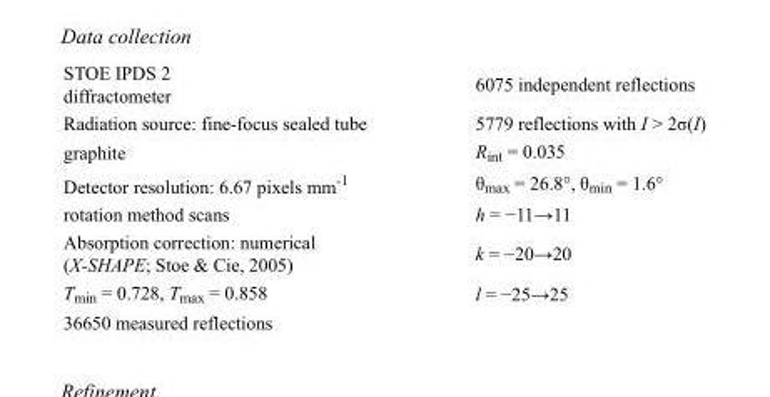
<table><tbody><tr><td>STOE IPDS 2 diffractometer</td><td>6075 independent reflections</td></tr><tr><td>Radiation source: fine-focus sealed tube</td><td>5779 reflections with I &gt; 2σ(I)</td></tr><tr><td>graphite</td><td>R<sub>int</sub> = 0.035</td></tr><tr><td>Detector resolution: 6.67 pixels mm<sup>-1</sup></td><td>θ<sub>max</sub> = 26.8°, θ<sub>min</sub> = 1.6°</td></tr><tr><td>rotation method scans</td><td>h = −11→11</td></tr><tr><td>Absorption correction: numerical (X-SHAPE; Stoe &amp; Cie, 2005)</td><td>k = −20→20</td></tr><tr><td>T<sub>min</sub> = 0.728, T<sub>max</sub> = 0.858</td><td>l = −25→25</td></tr><tr><td>36650 measured reflections</td><td></td></tr></tbody></table>